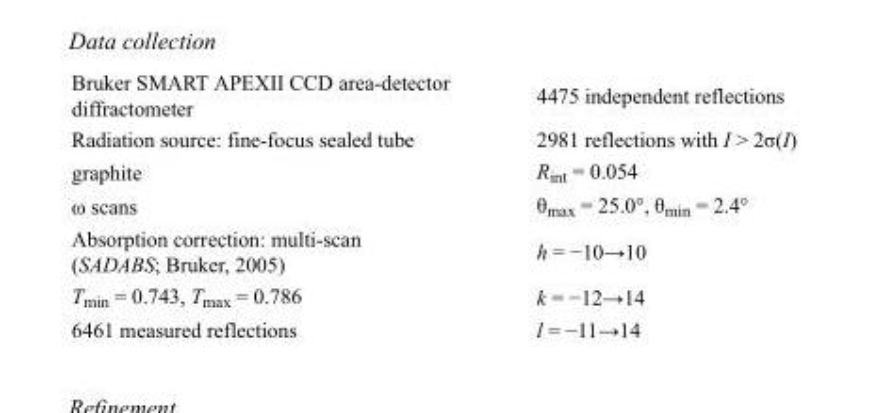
<table><tbody><tr><td>Bruker SMART APEXII CCD area-detector diffractometer</td><td>4475 independent reflections</td></tr><tr><td>Radiation source: fine-focus sealed tube</td><td>2981 reflections with I &gt; 2σ(I)</td></tr><tr><td>graphite</td><td>R<sub>int</sub> = 0.054</td></tr><tr><td>ω scans</td><td>θ<sub>max</sub> = 25.0°, θ<sub>min</sub> = 2.4°</td></tr><tr><td>Absorption correction: multi-scan (SADABS; Bruker, 2005)</td><td>h = −10→10</td></tr><tr><td>T<sub>min</sub> = 0.743, T<sub>max</sub> = 0.786</td><td>k = −12→14</td></tr><tr><td>6461 measured reflections</td><td>l = −11→14</td></tr></tbody></table>